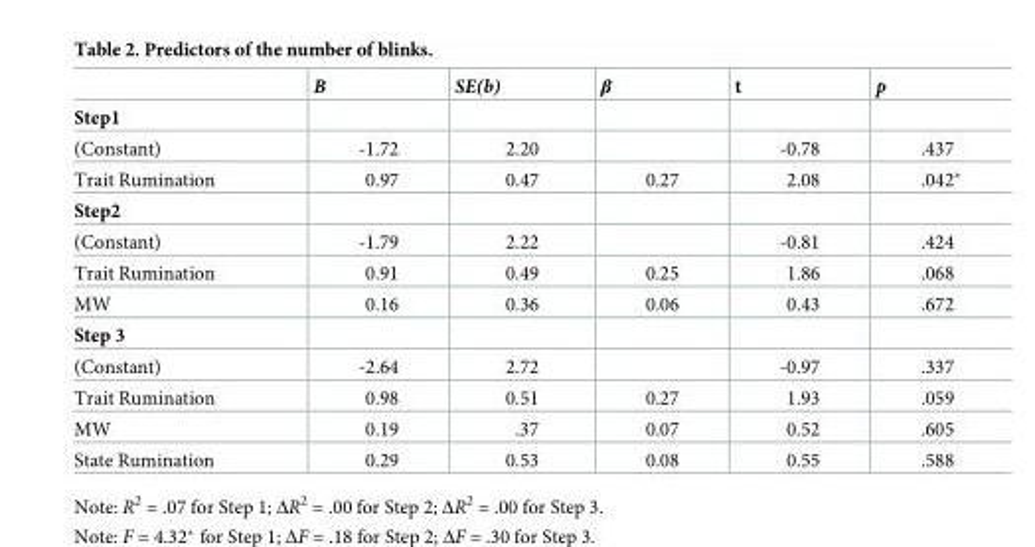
<table><thead><tr><td></td><td>B</td><td>SE(b)</td><td>β</td><td>t</td><td>p</td></tr></thead><tbody><tr><td colspan="6">Step1</td></tr><tr><td>(Constant)</td><td>-1.72</td><td>2.20</td><td></td><td>-0.78</td><td>.437</td></tr><tr><td>Trait Rumination</td><td>0.97</td><td>0.47</td><td>0.27</td><td>2.08</td><td>.042*</td></tr><tr><td colspan="6">Step2</td></tr><tr><td>(Constant)</td><td>-1.79</td><td>2.22</td><td></td><td>-0.81</td><td>.424</td></tr><tr><td>Trait Rumination</td><td>0.91</td><td>0.49</td><td>0.25</td><td>1.86</td><td>.068</td></tr><tr><td>MW</td><td>0.16</td><td>0.36</td><td>0.06</td><td>0.43</td><td>.672</td></tr><tr><td colspan="6">Step 3</td></tr><tr><td>(Constant)</td><td>-2.64</td><td>2.72</td><td></td><td>-0.97</td><td>.337</td></tr><tr><td>Trait Rumination</td><td>0.98</td><td>0.51</td><td>0.27</td><td>1.93</td><td>.059</td></tr><tr><td>MW</td><td>0.19</td><td>.37</td><td>0.07</td><td>0.52</td><td>.605</td></tr><tr><td>State Rumination</td><td>0.29</td><td>0.53</td><td>0.08</td><td>0.55</td><td>.588</td></tr></tbody></table>